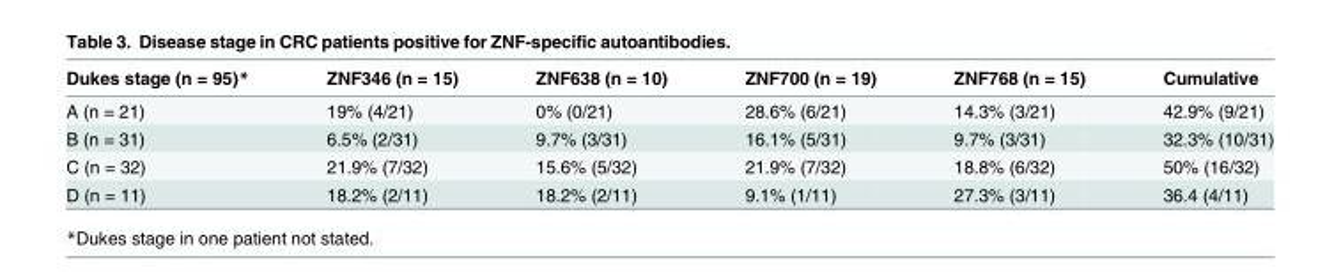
<table><thead><tr><td>Dukes stage (n = 95)*</td><td>ZNF346 (n = 15)</td><td>ZNF638 (n = 10)</td><td>ZNF700 (n = 19)</td><td>ZNF768 (n = 15)</td><td>Cumulative</td></tr></thead><tbody><tr><td>A (n = 21)</td><td>19% (4/21)</td><td>0% (0/21)</td><td>28.6% (6/21)</td><td>14.3% (3/21)</td><td>42.9% (9/21)</td></tr><tr><td>B (n = 31)</td><td>6.5% (2/31)</td><td>9.7% (3/31)</td><td>16.1% (5/31)</td><td>9.7% (3/31)</td><td>32.3% (10/31)</td></tr><tr><td>C (n = 32)</td><td>21.9% (7/32)</td><td>15.6% (5/32)</td><td>21.9% (7/32)</td><td>18.8% (6/32)</td><td>50% (16/32)</td></tr><tr><td>D (n = 11)</td><td>18.2% (2/11)</td><td>18.2% (2/11)</td><td>9.1% (1/11)</td><td>27.3% (3/11)</td><td>36.4 (4/11)</td></tr></tbody></table>